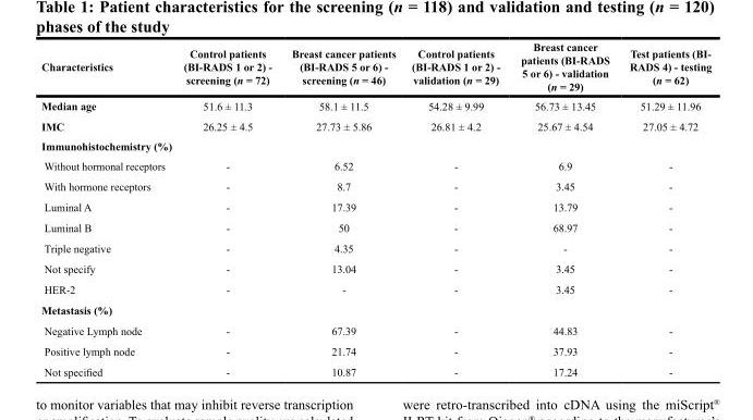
<table><thead><tr><td>Characteristics</td><td>Control patients (BI-RADS 1 or 2) - screening (n = 72)</td><td>Breast cancer patients (BI-RADS 5 or 6) - screening (n = 46)</td><td>Control patients (BI-RADS 1 or 2) - validation (n = 29)</td><td>Breast cancer patients (BI-RADS 5 or 6) - validation (n = 29)</td><td>Test patients (BI- RADS 4) - testing (n = 62)</td></tr></thead><tbody><tr><td>Median age</td><td>51.6 ± 11.3</td><td>58.1 ± 11.5</td><td>54.28 ± 9.99</td><td>56.73 ± 13.45</td><td>51.29 ± 11.96</td></tr><tr><td>IMC</td><td>26.25 ± 4.5</td><td>27.73 ± 5.86</td><td>26.81 ± 4.2</td><td>25.67 ± 4.54</td><td>27.05 ± 4.72</td></tr><tr><td colspan="6">Immunohistochemistry (%)</td></tr><tr><td>Without hormonal receptors</td><td>-</td><td>6.52</td><td>-</td><td>6.9</td><td>-</td></tr><tr><td>With hormone receptors</td><td>-</td><td>8.7</td><td>-</td><td>3.45</td><td>-</td></tr><tr><td>Luminal A</td><td>-</td><td>17.39</td><td>-</td><td>13.79</td><td>-</td></tr><tr><td>Luminal B</td><td>-</td><td>50</td><td>-</td><td>68.97</td><td>-</td></tr><tr><td>Triple negative</td><td>-</td><td>4.35</td><td>-</td><td>-</td><td>-</td></tr><tr><td>Not specify</td><td>-</td><td>13.04</td><td>-</td><td>3.45</td><td>-</td></tr><tr><td>HER-2</td><td>-</td><td>-</td><td>-</td><td>3.45</td><td>-</td></tr><tr><td colspan="6">Metastasis (%)</td></tr><tr><td>Negative Lymph node</td><td>-</td><td>67.39</td><td>-</td><td>44.83</td><td>-</td></tr><tr><td>Positive lymph node</td><td>-</td><td>21.74</td><td>-</td><td>37.93</td><td>-</td></tr><tr><td>Not specified</td><td>-</td><td>10.87</td><td>-</td><td>17.24</td><td>-</td></tr></tbody></table>